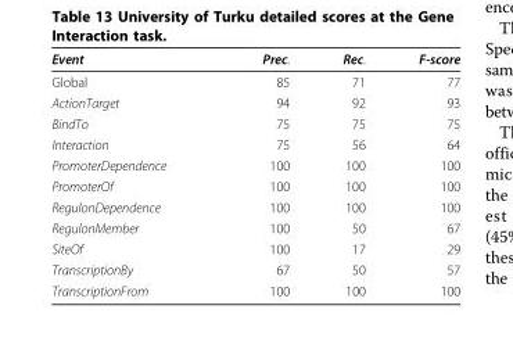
<table><thead><tr><td>Event</td><td>Prec.</td><td>Rec.</td><td>F-score</td></tr></thead><tbody><tr><td>Global</td><td>85</td><td>71</td><td>77</td></tr><tr><td>ActionTarget</td><td>94</td><td>92</td><td>93</td></tr><tr><td>BindTo</td><td>75</td><td>75</td><td>75</td></tr><tr><td>Interaction</td><td>75</td><td>56</td><td>64</td></tr><tr><td>PromoterDependence</td><td>100</td><td>100</td><td>100</td></tr><tr><td>PromoterOf</td><td>100</td><td>100</td><td>100</td></tr><tr><td>RegulonDependence</td><td>100</td><td>100</td><td>100</td></tr><tr><td>RegulonMember</td><td>100</td><td>50</td><td>67</td></tr><tr><td>SiteOf</td><td>100</td><td>17</td><td>29</td></tr><tr><td>TranscriptionBy</td><td>67</td><td>50</td><td>57</td></tr><tr><td>TranscriptionFrom</td><td>100</td><td>100</td><td>100</td></tr></tbody></table>